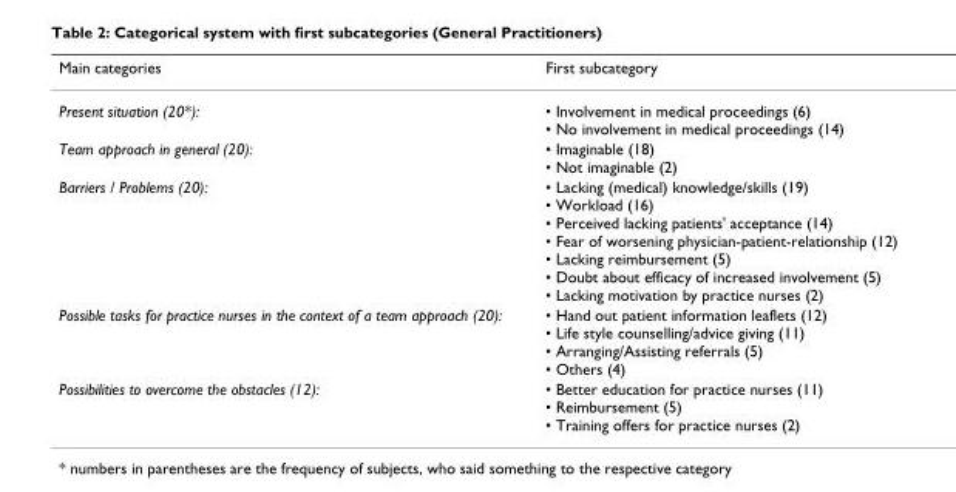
<table><thead><tr><td>Main categories</td><td>First subcategory</td></tr></thead><tbody><tr><td>Present situation (20*):</td><td>• Involvement in medical proceedings (6) • No involvement in medical proceedings (14)</td></tr><tr><td>Team approach in general (20):</td><td>• Imaginable (18) • Not imaginable (2)</td></tr><tr><td>Barriers / Problems (20):</td><td>• Lacking (medical) knowledge/skills (19) • Workload (16) • Perceived lacking patients&#x27; acceptance (14) • Fear of worsening physician-patient-relationship (12) • Lacking reimbursement (5) • Doubt about efficacy of increased involvement (5) • Lacking motivation by practice nurses (2)</td></tr><tr><td>Possible tasks for practice nurses in the context of a team approach (20):</td><td>• Hand out patient information leaflets (12) • Life style counselling/advice giving (11) • Arranging/Assisting referrals (5) • Others (4)</td></tr><tr><td>Possibilities to overcome the obstacles (12):</td><td>• Better education for practice nurses (11) • Reimbursement (5) • Training offers for practice nurses (2)</td></tr></tbody></table>